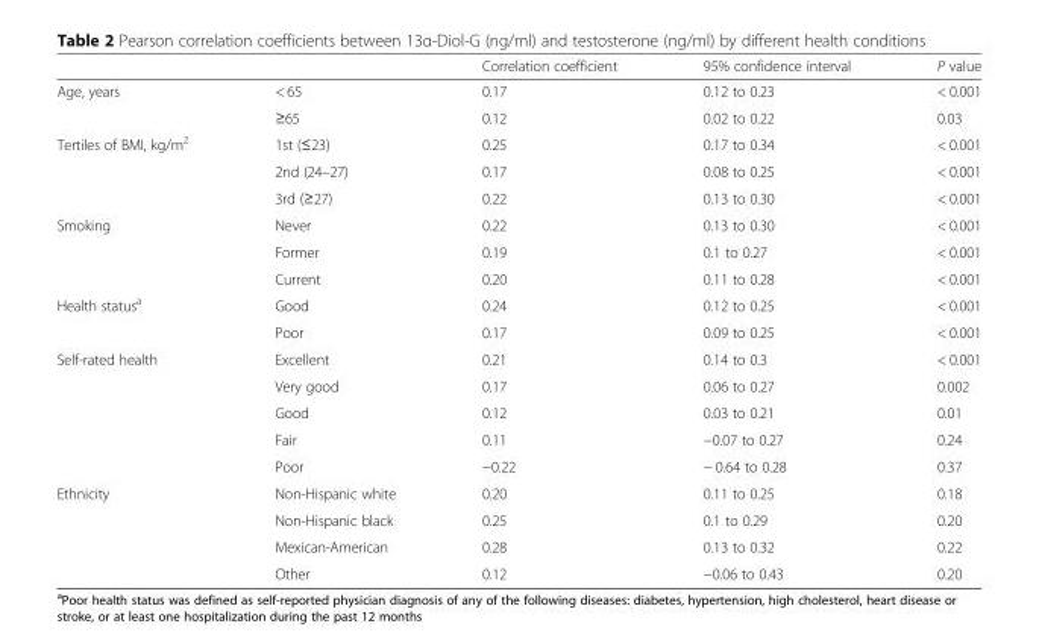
<table><thead><tr><td></td><td></td><td>Correlation coefficient</td><td>95% confidence interval</td><td>P value</td></tr></thead><tbody><tr><td rowspan="2">Age, years</td><td>&lt; 65</td><td>0.17</td><td>0.12 to 0.23</td><td>&lt; 0.001</td></tr><tr><td>≥65</td><td>0.12</td><td>0.02 to 0.22</td><td>0.03</td></tr><tr><td rowspan="3">Tertiles of BMI, kg/m<sup>2</sup></td><td>1st (≤23)</td><td>0.25</td><td>0.17 to 0.34</td><td>&lt; 0.001</td></tr><tr><td>2nd (24–27)</td><td>0.17</td><td>0.08 to 0.25</td><td>&lt; 0.001</td></tr><tr><td>3rd (≥27)</td><td>0.22</td><td>0.13 to 0.30</td><td>&lt; 0.001</td></tr><tr><td rowspan="3">Smoking</td><td>Never</td><td>0.22</td><td>0.13 to 0.30</td><td>&lt; 0.001</td></tr><tr><td>Former</td><td>0.19</td><td>0.1 to 0.27</td><td>&lt; 0.001</td></tr><tr><td>Current</td><td>0.20</td><td>0.11 to 0.28</td><td>&lt; 0.001</td></tr><tr><td rowspan="2">Health status<sup>a</sup></td><td>Good</td><td>0.24</td><td>0.12 to 0.25</td><td>&lt; 0.001</td></tr><tr><td>Poor</td><td>0.17</td><td>0.09 to 0.25</td><td>&lt; 0.001</td></tr><tr><td rowspan="5">Self-rated health</td><td>Excellent</td><td>0.21</td><td>0.14 to 0.3</td><td>&lt; 0.001</td></tr><tr><td>Very good</td><td>0.17</td><td>0.06 to 0.27</td><td>0.002</td></tr><tr><td>Good</td><td>0.12</td><td>0.03 to 0.21</td><td>0.01</td></tr><tr><td>Fair</td><td>0.11</td><td>−0.07 to 0.27</td><td>0.24</td></tr><tr><td>Poor</td><td>−0.22</td><td>− 0.64 to 0.28</td><td>0.37</td></tr><tr><td rowspan="4">Ethnicity</td><td>Non-Hispanic white</td><td>0.20</td><td>0.11 to 0.25</td><td>0.18</td></tr><tr><td>Non-Hispanic black</td><td>0.25</td><td>0.1 to 0.29</td><td>0.20</td></tr><tr><td>Mexican-American</td><td>0.28</td><td>0.13 to 0.32</td><td>0.22</td></tr><tr><td>Other</td><td>0.12</td><td>−0.06 to 0.43</td><td>0.20</td></tr></tbody></table>